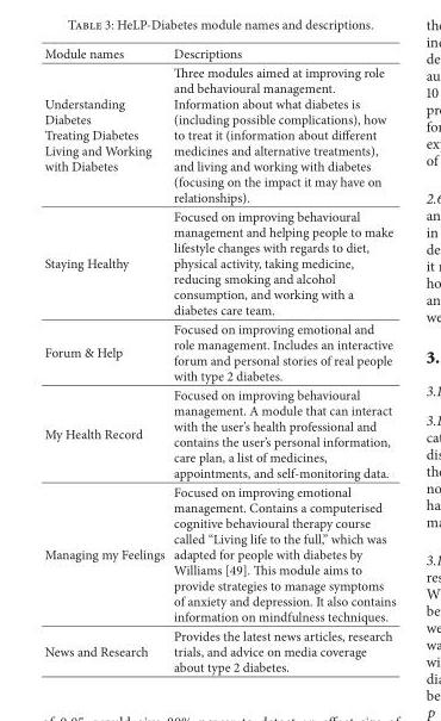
<table><thead><tr><td>Module names</td><td>Descriptions</td></tr></thead><tbody><tr><td>Understanding Diabetes Treating Diabetes Living and Working with Diabetes</td><td>Three modules aimed at improving role and behavioural management. Information about what diabetes is (including possible complications), how to treat it (information about different medicines and alternative treatments), and living and working with diabetes (focusing on the impact it may have on relationships).</td></tr><tr><td>Staying Healthy</td><td>Focused on improving behavioural management and helping people to make lifestyle changes with regards to diet, physical activity, taking medicine, reducing smoking and alcohol consumption, and working with a diabetes care team.</td></tr><tr><td>Forum &amp; Help</td><td>Focused on improving emotional and role management. Includes an interactive forum and personal stories of real people with type 2 diabetes.</td></tr><tr><td>My Health Record</td><td>Focused on improving behavioural management. A module that can interact with the user’s health professional and contains the user’s personal information, care plan, a list of medicines, appointments, and self-monitoring data.</td></tr><tr><td>Managing my Feelings</td><td>Focused on improving emotional management. Contains a computerised cognitive behavioural therapy course called “Living life to the full,” which was adapted for people with diabetes by Williams [49]. This module aims to provide strategies to manage symptoms of anxiety and depression. It also contains information on mindfulness techniques.</td></tr><tr><td>News and Research</td><td>Provides the latest news articles, research trials, and advice on media coverage about type 2 diabetes.</td></tr></tbody></table>